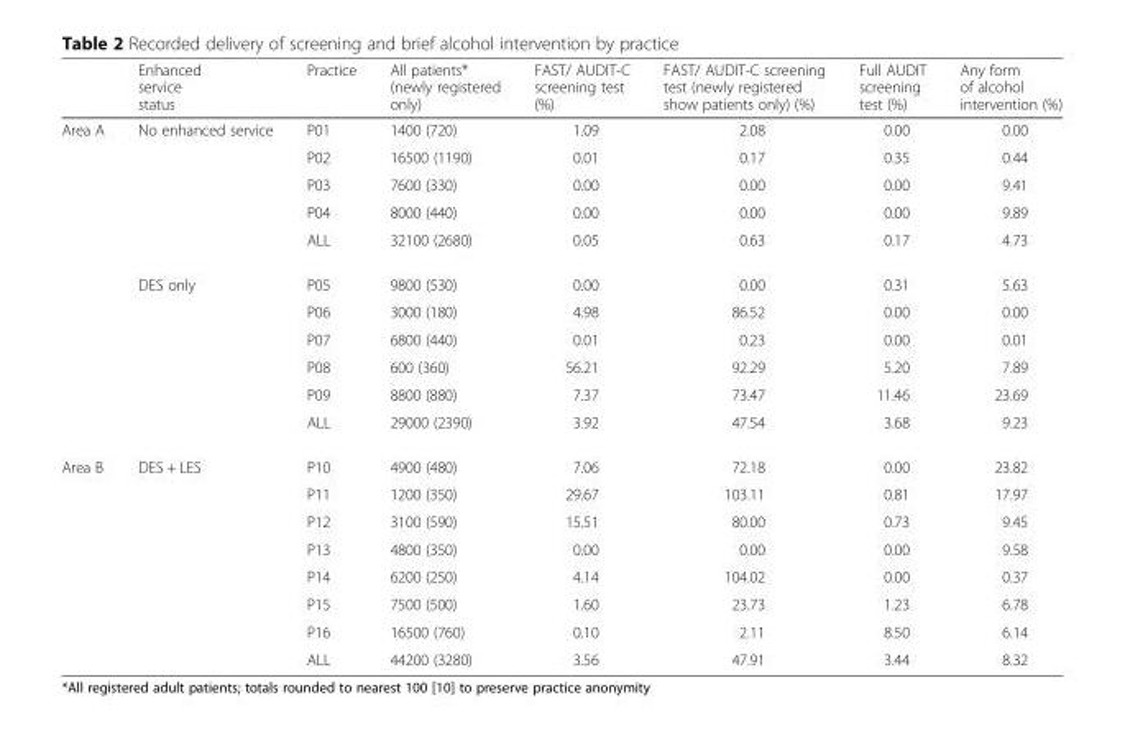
<table><thead><tr><td></td><td>Enhanced service status</td><td>Practice</td><td>All patients* (newly registered only)</td><td>FAST/ AUDIT-C screening test (%)</td><td>FAST/ AUDIT-C screening test (newly registered show patients only) (%)</td><td>Full AUDIT screening test (%)</td><td>Any form of alcohol intervention (%)</td></tr></thead><tbody><tr><td rowspan="11">Area A</td><td rowspan="5">No enhanced service</td><td>P01</td><td>1400 (720)</td><td>1.09</td><td>2.08</td><td>0.00</td><td>0.00</td></tr><tr><td>P02</td><td>16500 (1190)</td><td>0.01</td><td>0.17</td><td>0.35</td><td>0.44</td></tr><tr><td>P03</td><td>7600 (330)</td><td>0.00</td><td>0.00</td><td>0.00</td><td>9.41</td></tr><tr><td>P04</td><td>8000 (440)</td><td>0.00</td><td>0.00</td><td>0.00</td><td>9.89</td></tr><tr><td>ALL</td><td>32100 (2680)</td><td>0.05</td><td>0.63</td><td>0.17</td><td>4.73</td></tr><tr><td rowspan="6">DES only</td><td>P05</td><td>9800 (530)</td><td>0.00</td><td>0.00</td><td>0.31</td><td>5.63</td></tr><tr><td>P06</td><td>3000 (180)</td><td>4.98</td><td>86.52</td><td>0.00</td><td>0.00</td></tr><tr><td>P07</td><td>6800 (440)</td><td>0.01</td><td>0.23</td><td>0.00</td><td>0.01</td></tr><tr><td>P08</td><td>600 (360)</td><td>56.21</td><td>92.29</td><td>5.20</td><td>7.89</td></tr><tr><td>P09</td><td>8800 (880)</td><td>7.37</td><td>73.47</td><td>11.46</td><td>23.69</td></tr><tr><td>ALL</td><td>29000 (2390)</td><td>3.92</td><td>47.54</td><td>3.68</td><td>9.23</td></tr><tr><td rowspan="8">Area B</td><td rowspan="8">DES + LES</td><td>P10</td><td>4900 (480)</td><td>7.06</td><td>72.18</td><td>0.00</td><td>23.82</td></tr><tr><td>P11</td><td>1200 (350)</td><td>29.67</td><td>103.11</td><td>0.81</td><td>17.97</td></tr><tr><td>P12</td><td>3100 (590)</td><td>15.51</td><td>80.00</td><td>0.73</td><td>9.45</td></tr><tr><td>P13</td><td>4800 (350)</td><td>0.00</td><td>0.00</td><td>0.00</td><td>9.58</td></tr><tr><td>P14</td><td>6200 (250)</td><td>4.14</td><td>104.02</td><td>0.00</td><td>0.37</td></tr><tr><td>P15</td><td>7500 (500)</td><td>1.60</td><td>23.73</td><td>1.23</td><td>6.78</td></tr><tr><td>P16</td><td>16500 (760)</td><td>0.10</td><td>2.11</td><td>8.50</td><td>6.14</td></tr><tr><td>ALL</td><td>44200 (3280)</td><td>3.56</td><td>47.91</td><td>3.44</td><td>8.32</td></tr></tbody></table>